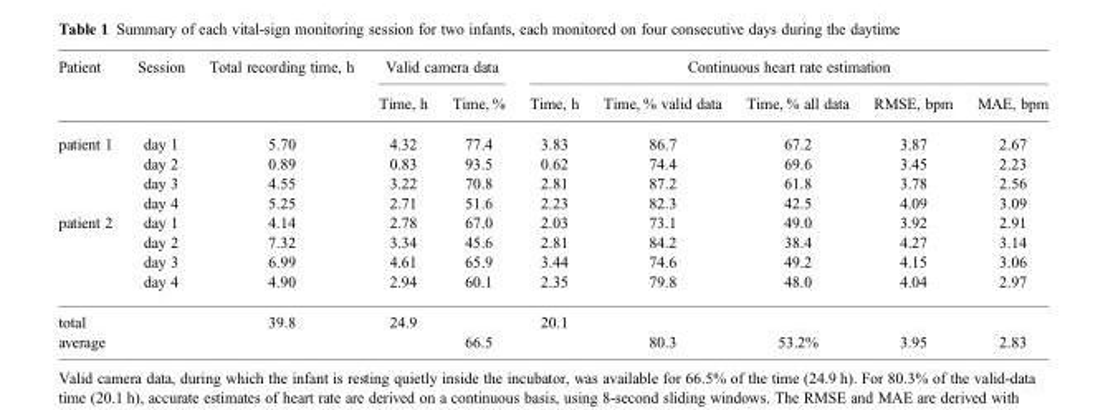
<table><thead><tr><td rowspan="2">Patient</td><td rowspan="2">Session</td><td rowspan="2">Total recording time, h</td><td colspan="2">Valid camera data</td><td colspan="5">Continuous heart rate estimation</td></tr><tr><td>Time, h</td><td>Time, %</td><td>Time, h</td><td>Time, % valid data</td><td>Time, % all data</td><td>RMSE, bpm</td><td>MAE, bpm</td></tr></thead><tbody><tr><td rowspan="4">patient 1</td><td>day 1</td><td>5.70</td><td>4.32</td><td>77.4</td><td>3.83</td><td>86.7</td><td>67.2</td><td>3.87</td><td>2.67</td></tr><tr><td>day 2</td><td>0.89</td><td>0.83</td><td>93.5</td><td>0.62</td><td>74.4</td><td>69.6</td><td>3.45</td><td>2.23</td></tr><tr><td>day 3</td><td>4.55</td><td>3.22</td><td>70.8</td><td>2.81</td><td>87.2</td><td>61.8</td><td>3.78</td><td>2.56</td></tr><tr><td>day 4</td><td>5.25</td><td>2.71</td><td>51.6</td><td>2.23</td><td>82.3</td><td>42.5</td><td>4.09</td><td>3.09</td></tr><tr><td rowspan="4">patient 2</td><td>day 1</td><td>4.14</td><td>2.78</td><td>67.0</td><td>2.03</td><td>73.1</td><td>49.0</td><td>3.92</td><td>2.91</td></tr><tr><td>day 2</td><td>7.32</td><td>3.34</td><td>45.6</td><td>2.81</td><td>84.2</td><td>38.4</td><td>4.27</td><td>3.14</td></tr><tr><td>day 3</td><td>6.99</td><td>4.61</td><td>65.9</td><td>3.44</td><td>74.6</td><td>49.2</td><td>4.15</td><td>3.06</td></tr><tr><td>day 4</td><td>4.90</td><td>2.94</td><td>60.1</td><td>2.35</td><td>79.8</td><td>48.0</td><td>4.04</td><td>2.97</td></tr><tr><td colspan="2">total</td><td>39.8</td><td>24.9</td><td></td><td>20.1</td><td></td><td></td><td></td><td></td></tr><tr><td colspan="2">average</td><td></td><td></td><td>66.5</td><td></td><td>80.3</td><td>53.2%</td><td>3.95</td><td>2.83</td></tr></tbody></table>